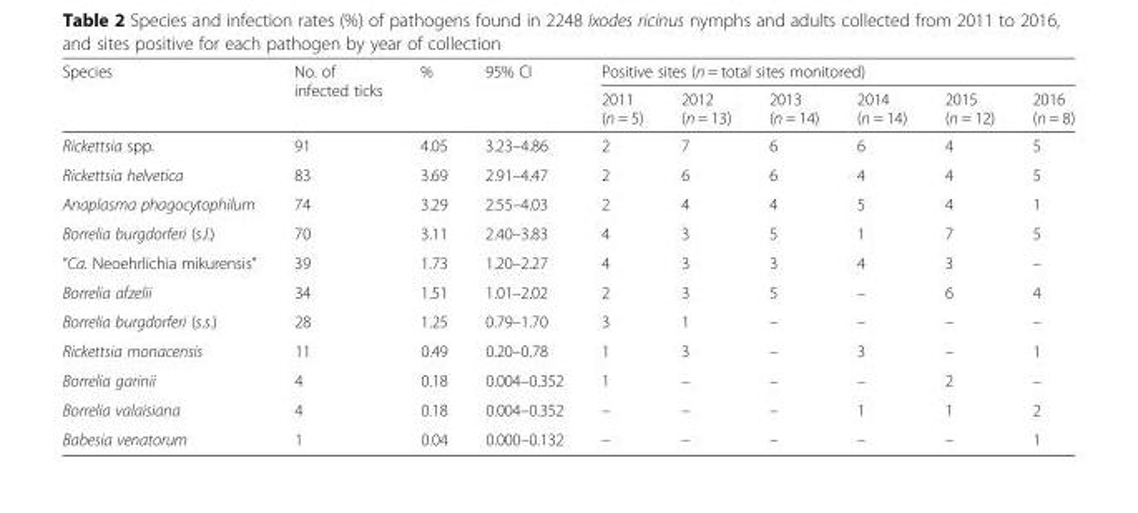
<table><thead><tr><td rowspan="2">Species</td><td rowspan="2">No. of infected ticks</td><td rowspan="2">%</td><td rowspan="2">95% CI</td><td colspan="6">Positive sites (n = total sites monitored)</td></tr><tr><td>2011 (n = 5)</td><td>2012 (n = 13)</td><td>2013 (n = 14)</td><td>2014 (n = 14)</td><td>2015 (n = 12)</td><td>2016 (n = 8)</td></tr></thead><tbody><tr><td>Rickettsia spp.</td><td>91</td><td>4.05</td><td>3.23–4.86</td><td>2</td><td>7</td><td>6</td><td>6</td><td>4</td><td>5</td></tr><tr><td>Rickettsia helvetica</td><td>83</td><td>3.69</td><td>2.91–4.47</td><td>2</td><td>6</td><td>6</td><td>4</td><td>4</td><td>5</td></tr><tr><td>Anaplasma phagocytophilum</td><td>74</td><td>3.29</td><td>2.55–4.03</td><td>2</td><td>4</td><td>4</td><td>5</td><td>4</td><td>1</td></tr><tr><td>Borrelia burgdorferi (s.l.)</td><td>70</td><td>3.11</td><td>2.40–3.83</td><td>4</td><td>3</td><td>5</td><td>1</td><td>7</td><td>5</td></tr><tr><td>“Ca. Neoehrlichia mikurensis”</td><td>39</td><td>1.73</td><td>1.20–2.27</td><td>4</td><td>3</td><td>3</td><td>4</td><td>3</td><td>–</td></tr><tr><td>Borrelia afzelii</td><td>34</td><td>1.51</td><td>1.01–2.02</td><td>2</td><td>3</td><td>5</td><td>–</td><td>6</td><td>4</td></tr><tr><td>Borrelia burgdorferi (s.s.)</td><td>28</td><td>1.25</td><td>0.79–1.70</td><td>3</td><td>1</td><td>–</td><td>–</td><td>–</td><td>–</td></tr><tr><td>Rickettsia monacensis</td><td>11</td><td>0.49</td><td>0.20–0.78</td><td>1</td><td>3</td><td>–</td><td>3</td><td>–</td><td>1</td></tr><tr><td>Borrelia garinii</td><td>4</td><td>0.18</td><td>0.004–0.352</td><td>1</td><td>–</td><td>–</td><td>–</td><td>2</td><td>–</td></tr><tr><td>Borrelia valaisiana</td><td>4</td><td>0.18</td><td>0.004–0.352</td><td>–</td><td>–</td><td>–</td><td>1</td><td>1</td><td>2</td></tr><tr><td>Babesia venatorum</td><td>1</td><td>0.04</td><td>0.000–0.132</td><td>–</td><td>–</td><td>–</td><td>–</td><td>–</td><td>1</td></tr></tbody></table>